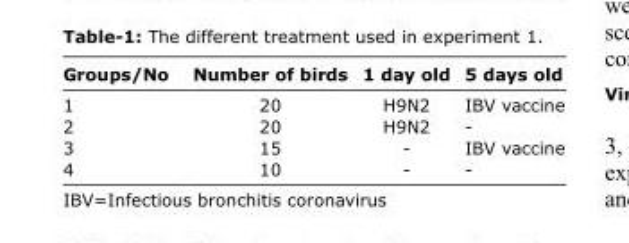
<table><thead><tr><td>Groups/No</td><td>Number of birds</td><td>1 day old</td><td>5 days old</td></tr></thead><tbody><tr><td>1</td><td>20</td><td>H9N2</td><td>IBV vaccine</td></tr><tr><td>2</td><td>20</td><td>H9N2</td><td>-</td></tr><tr><td>3</td><td>15</td><td>-</td><td>IBV vaccine</td></tr><tr><td>4</td><td>10</td><td>-</td><td>-</td></tr></tbody></table>